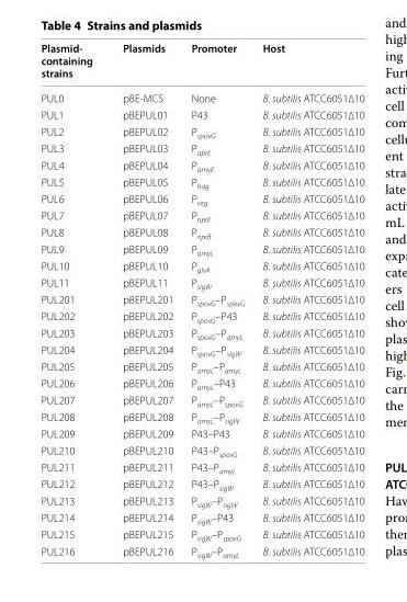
<table><thead><tr><td>Plasmid- containing strains</td><td>Plasmids</td><td>Promoter</td><td>Host</td></tr></thead><tbody><tr><td>PUL0</td><td>pBE-MCS</td><td>None</td><td>B. subtilis ATCC6051∆10</td></tr><tr><td>PUL1</td><td>pBEPUL01</td><td>P43</td><td>B. subtilis ATCC6051∆10</td></tr><tr><td>PUL2</td><td>pBEPUL02</td><td>P<sub>spovG</sub></td><td>B. subtilis ATCC6051∆10</td></tr><tr><td>PUL3</td><td>pBEPUL03</td><td>P<sub>aprE</sub></td><td>B. subtilis ATCC6051∆10</td></tr><tr><td>PUL4</td><td>pBEPUL04</td><td>P<sub>amyE</sub></td><td>B. subtilis ATCC6051∆10</td></tr><tr><td>PUL5</td><td>pBEPUL05</td><td>P<sub>hag</sub></td><td>B. subtilis ATCC6051∆10</td></tr><tr><td>PUL6</td><td>pBEPUL06</td><td>P<sub>veg</sub></td><td>B. subtilis ATCC6051∆10</td></tr><tr><td>PUL7</td><td>pBEPUL07</td><td>P<sub>nprE</sub></td><td>B. subtilis ATCC6051∆10</td></tr><tr><td>PUL8</td><td>pBEPUL08</td><td>P<sub>nprB</sub></td><td>B. subtilis ATCC6051∆10</td></tr><tr><td>PUL9</td><td>pBEPUL09</td><td>P<sub>amyL</sub></td><td>B. subtilis ATCC6051∆10</td></tr><tr><td>PUL10</td><td>pBEPUL10</td><td>P<sub>glvA</sub></td><td>B. subtilis ATCC6051∆10</td></tr><tr><td>PUL11</td><td>pBEPUL11</td><td>P<sub>sigW</sub></td><td>B. subtilis ATCC6051∆10</td></tr><tr><td>PUL201</td><td>pBEPUL201</td><td>P<sub>spovG</sub>–P<sub>spovG</sub></td><td>B. subtilis ATCC6051∆10</td></tr><tr><td>PUL202</td><td>pBEPUL202</td><td>P<sub>spovG</sub>–P43</td><td>B. subtilis ATCC6051∆10</td></tr><tr><td>PUL203</td><td>pBEPUL203</td><td>P<sub>spovG</sub>–P<sub>amyL</sub></td><td>B. subtilis ATCC6051∆10</td></tr><tr><td>PUL204</td><td>pBEPUL204</td><td>P<sub>spovG</sub>–P<sub>sigW</sub></td><td>B. subtilis ATCC6051∆10</td></tr><tr><td>PUL205</td><td>pBEPUL205</td><td>P<sub>amyL</sub>–P<sub>amyL</sub></td><td>B. subtilis ATCC6051∆10</td></tr><tr><td>PUL206</td><td>pBEPUL206</td><td>P<sub>amyL</sub>–P43</td><td>B. subtilis ATCC6051∆10</td></tr><tr><td>PUL207</td><td>pBEPUL207</td><td>P<sub>amyL</sub>–P<sub>spovG</sub></td><td>B. subtilis ATCC6051∆10</td></tr><tr><td>PUL208</td><td>pBEPUL208</td><td>P<sub>amyL</sub>–P<sub>sigW</sub></td><td>B. subtilis ATCC6051∆10</td></tr><tr><td>PUL209</td><td>pBEPUL209</td><td>P43–P43</td><td>B. subtilis ATCC6051∆10</td></tr><tr><td>PUL210</td><td>pBEPUL210</td><td>P43–P<sub>spovG</sub></td><td>B. subtilis ATCC6051∆10</td></tr><tr><td>PUL211</td><td>pBEPUL211</td><td>P43–P<sub>amyL</sub></td><td>B. subtilis ATCC6051∆10</td></tr><tr><td>PUL212</td><td>pBEPUL212</td><td>P43–P<sub>sigW</sub></td><td>B. subtilis ATCC6051∆10</td></tr><tr><td>PUL213</td><td>pBEPUL213</td><td>P<sub>sigW</sub>–P<sub>sigW</sub></td><td>B. subtilis ATCC6051∆10</td></tr><tr><td>PUL214</td><td>pBEPUL214</td><td>P<sub>sigW</sub>–P43</td><td>B. subtilis ATCC6051∆10</td></tr><tr><td>PUL215</td><td>pBEPUL215</td><td>P<sub>sigW</sub>–P<sub>spovG</sub></td><td>B. subtilis ATCC6051∆10</td></tr><tr><td>PUL216</td><td>pBEPUL216</td><td>P<sub>sigW</sub>–P<sub>amyL</sub></td><td>B. subtilis ATCC6051∆10</td></tr></tbody></table>